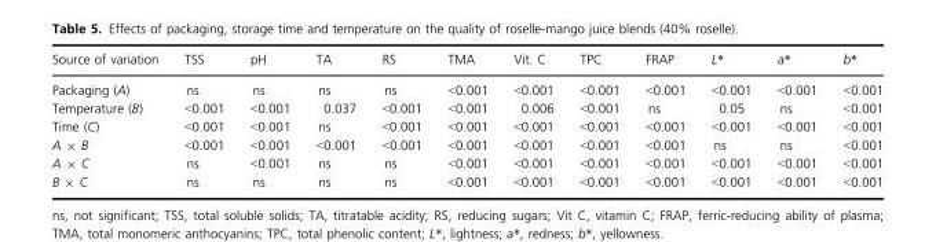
<table><thead><tr><td>Source of variation</td><td>TSS</td><td>pH</td><td>TA</td><td>RS</td><td>TMA</td><td>Vit. C</td><td>TPC</td><td>FRAP</td><td>L*</td><td>a*</td><td>b*</td></tr></thead><tbody><tr><td>Packaging (A)</td><td>ns</td><td>ns</td><td>ns</td><td>ns</td><td>&lt;0.001</td><td>&lt;0.001</td><td>&lt;0.001</td><td>&lt;0.001</td><td>&lt;0.001</td><td>&lt;0.001</td><td>&lt;0.001</td></tr><tr><td>Temperature (B)</td><td>&lt;0.001</td><td>&lt;0.001</td><td>0.037</td><td>&lt;0.001</td><td>&lt;0.001</td><td>0.006</td><td>&lt;0.001</td><td>ns</td><td>0.05</td><td>ns</td><td>&lt;0.001</td></tr><tr><td>Time (C)</td><td>&lt;0.001</td><td>&lt;0.001</td><td>ns</td><td>&lt;0.001</td><td>&lt;0.001</td><td>&lt;0.001</td><td>&lt;0.001</td><td>&lt;0.001</td><td>&lt;0.001</td><td>&lt;0.001</td><td>&lt;0.001</td></tr><tr><td>A × B</td><td>&lt;0.001</td><td>&lt;0.001</td><td>&lt;0.001</td><td>&lt;0.001</td><td>&lt;0.001</td><td>&lt;0.001</td><td>&lt;0.001</td><td>&lt;0.001</td><td>ns</td><td>ns</td><td>&lt;0.001</td></tr><tr><td>A × C</td><td>ns</td><td>&lt;0.001</td><td>ns</td><td>ns</td><td>&lt;0.001</td><td>&lt;0.001</td><td>&lt;0.001</td><td>&lt;0.001</td><td>&lt;0.001</td><td>&lt;0.001</td><td>&lt;0.001</td></tr><tr><td>B × C</td><td>ns</td><td>ns</td><td>ns</td><td>ns</td><td>&lt;0.001</td><td>&lt;0.001</td><td>&lt;0.001</td><td>&lt;0.001</td><td>&lt;0.001</td><td>&lt;0.001</td><td>&lt;0.001</td></tr></tbody></table>